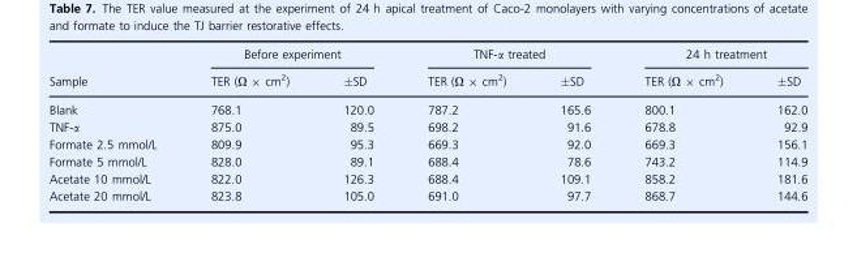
<table><thead><tr><td rowspan="2">Sample</td><td colspan="2">Before experiment</td><td colspan="2">TNF-α treated</td><td colspan="2">24 h treatment</td></tr><tr><td>TER (Ω × cm<sup>2</sup>)</td><td>±SD</td><td>TER (Ω × cm<sup>2</sup>)</td><td>±SD</td><td>TER (Ω × cm<sup>2</sup>)</td><td>±SD</td></tr></thead><tbody><tr><td>Blank</td><td>768.1</td><td>120.0</td><td>787.2</td><td>165.6</td><td>800.1</td><td>162.0</td></tr><tr><td>TNF-α</td><td>875.0</td><td>89.5</td><td>698.2</td><td>91.6</td><td>678.8</td><td>92.9</td></tr><tr><td>Formate 2.5 mmol/L</td><td>809.9</td><td>95.3</td><td>669.3</td><td>92.0</td><td>669.3</td><td>156.1</td></tr><tr><td>Formate 5 mmol/L</td><td>828.0</td><td>89.1</td><td>688.4</td><td>78.6</td><td>743.2</td><td>114.9</td></tr><tr><td>Acetate 10 mmol/L</td><td>822.0</td><td>126.3</td><td>688.4</td><td>109.1</td><td>858.2</td><td>181.6</td></tr><tr><td>Acetate 20 mmol/L</td><td>823.8</td><td>105.0</td><td>691.0</td><td>97.7</td><td>868.7</td><td>144.6</td></tr></tbody></table>